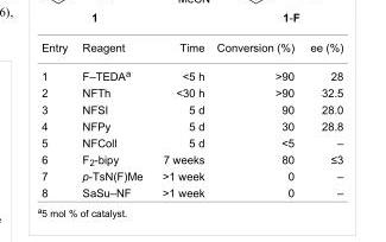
<table><tbody><tr><td>Entry</td><td>Reagent</td><td>Time</td><td>Conversion (%)</td><td>ee (%)</td></tr><tr><td>1</td><td>F–TEDA<sup>a</sup></td><td>&lt;5 h</td><td>&gt;90</td><td>28</td></tr><tr><td>2</td><td>NFTh</td><td>&lt;30 h</td><td>&gt;90</td><td>32.5</td></tr><tr><td>3</td><td>NFSI</td><td>5 d</td><td>90</td><td>28.0</td></tr><tr><td>4</td><td>NFPy</td><td>5 d</td><td>30</td><td>28.8</td></tr><tr><td>5</td><td>NFColl</td><td>5 d</td><td>&lt;5</td><td>–</td></tr><tr><td>6</td><td>F<sub>2</sub>-bipy</td><td>7 weeks</td><td>80</td><td>≤3</td></tr><tr><td>7</td><td>p-TsN(F)Me</td><td>&gt;1 week</td><td>0</td><td>–</td></tr><tr><td>8</td><td>SaSu–NF</td><td>&gt;1 week</td><td>0</td><td>–</td></tr></tbody></table>